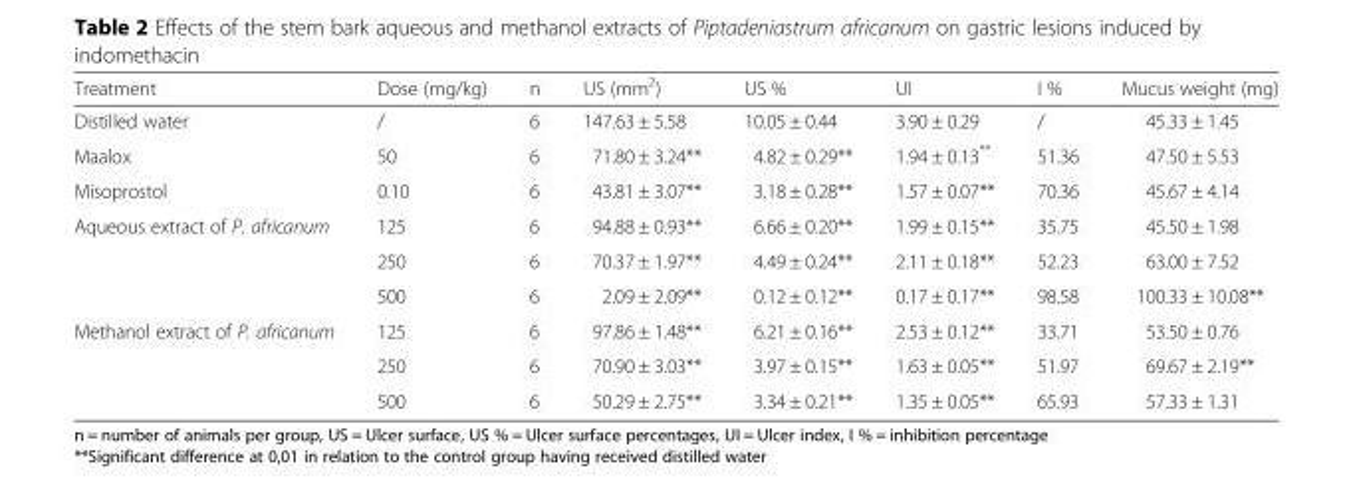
<table><thead><tr><td>Treatment</td><td>Dose (mg/kg)</td><td>n</td><td>US (mm<sup>2</sup>)</td><td>US %</td><td>UI</td><td>I %</td><td>Mucus weight (mg)</td></tr></thead><tbody><tr><td>Distilled water</td><td>/</td><td>6</td><td>147.63 ± 5.58</td><td>10.05 ± 0.44</td><td>3.90 ± 0.29</td><td>/</td><td>45.33 ± 1.45</td></tr><tr><td>Maalox</td><td>50</td><td>6</td><td>71.80 ± 3.24**</td><td>4.82 ± 0.29**</td><td>1.94 ± 0.13**</td><td>51.36</td><td>47.50 ± 5.53</td></tr><tr><td>Misoprostol</td><td>0.10</td><td>6</td><td>43.81 ± 3.07**</td><td>3.18 ± 0.28**</td><td>1.57 ± 0.07**</td><td>70.36</td><td>45.67 ± 4.14</td></tr><tr><td rowspan="3">Aqueous extract of P. africanum</td><td>125</td><td>6</td><td>94.88 ± 0.93**</td><td>6.66 ± 0.20**</td><td>1.99 ± 0.15**</td><td>35.75</td><td>45.50 ± 1.98</td></tr><tr><td>250</td><td>6</td><td>70.37 ± 1.97**</td><td>4.49 ± 0.24**</td><td>2.11 ± 0.18**</td><td>52.23</td><td>63.00 ± 7.52</td></tr><tr><td>500</td><td>6</td><td>2.09 ± 2.09**</td><td>0.12 ± 0.12**</td><td>0.17 ± 0.17**</td><td>98.58</td><td>100.33 ± 10.08**</td></tr><tr><td rowspan="3">Methanol extract of P. africanum</td><td>125</td><td>6</td><td>97.86 ± 1.48**</td><td>6.21 ± 0.16**</td><td>2.53 ± 0.12**</td><td>33.71</td><td>53.50 ± 0.76</td></tr><tr><td>250</td><td>6</td><td>70.90 ± 3.03**</td><td>3.97 ± 0.15**</td><td>1.63 ± 0.05**</td><td>51.97</td><td>69.67 ± 2.19**</td></tr><tr><td>500</td><td>6</td><td>50.29 ± 2.75**</td><td>3.34 ± 0.21**</td><td>1.35 ± 0.05**</td><td>65.93</td><td>57.33 ± 1.31</td></tr></tbody></table>